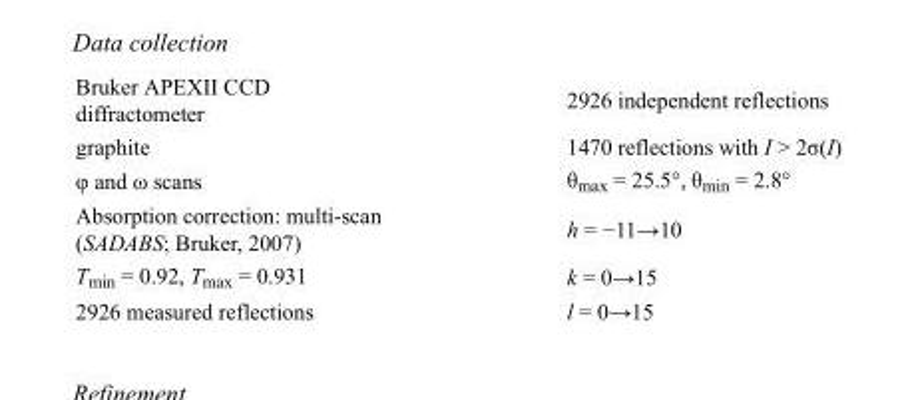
<table><tbody><tr><td>Bruker APEXII CCD diffractometer</td><td>2926 independent reflections</td></tr><tr><td>graphite</td><td>1470 reflections with I &gt; 2σ(I)</td></tr><tr><td>φ and ω scans</td><td>θ<sub>max</sub> = 25.5°, θ<sub>min</sub> = 2.8°</td></tr><tr><td>Absorption correction: multi-scan (SADABS; Bruker, 2007)</td><td>h = −11→10</td></tr><tr><td>T<sub>min</sub> = 0.92, T<sub>max</sub> = 0.931</td><td>k = 0→15</td></tr><tr><td>2926 measured reflections</td><td>l = 0→15</td></tr></tbody></table>